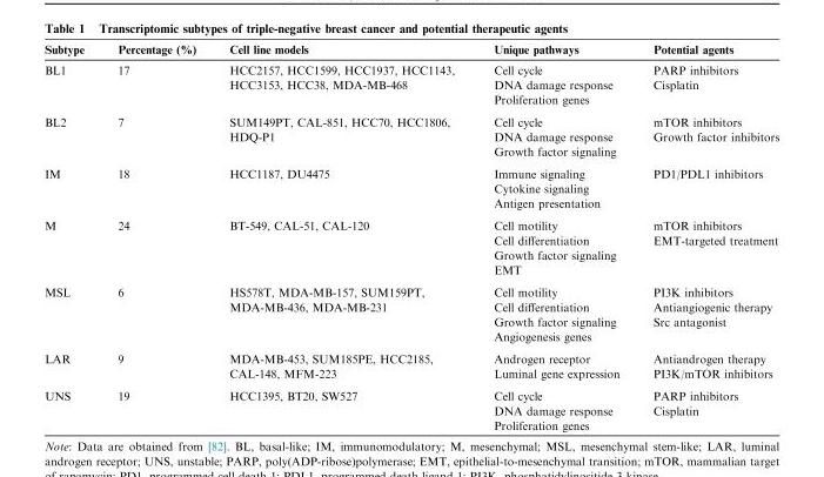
<table><thead><tr><td>Subtype</td><td>Percentage (%)</td><td>Cell line models</td><td>Unique pathways</td><td>Potential agents</td></tr></thead><tbody><tr><td>BL1</td><td>17</td><td>HCC2157, HCC1599, HCC1937, HCC1143, HCC3153, HCC38, MDA-MB-468</td><td>Cell cycle DNA damage response Proliferation genes</td><td>PARP inhibitors Cisplatin</td></tr><tr><td>BL2</td><td>7</td><td>SUM149PT, CAL-851, HCC70, HCC1806, HDQ-P1</td><td>Cell cycle DNA damage response Growth factor signaling</td><td>mTOR inhibitors Growth factor inhibitors</td></tr><tr><td>IM</td><td>18</td><td>HCC1187, DU4475</td><td>Immune signaling Cytokine signaling Antigen presentation</td><td>PD1/PDL1 inhibitors</td></tr><tr><td>M</td><td>24</td><td>BT-549, CAL-51, CAL-120</td><td>Cell motility Cell differentiation Growth factor signaling EMT</td><td>mTOR inhibitors EMT-targeted treatment</td></tr><tr><td>MSL</td><td>6</td><td>HS578T, MDA-MB-157, SUM159PT, MDA-MB-436, MDA-MB-231</td><td>Cell motility Cell differentiation Growth factor signaling Angiogenesis genes</td><td>PI3K inhibitors Antiangiogenic therapy Src antagonist</td></tr><tr><td>LAR</td><td>9</td><td>MDA-MB-453, SUM185PE, HCC2185, CAL-148, MFM-223</td><td>Androgen receptor Luminal gene expression</td><td>Antiandrogen therapy PI3K/mTOR inhibitors</td></tr><tr><td>UNS</td><td>19</td><td>HCC1395, BT20, SW527</td><td>Cell cycle DNA damage response Proliferation genes</td><td>PARP inhibitors Cisplatin</td></tr></tbody></table>